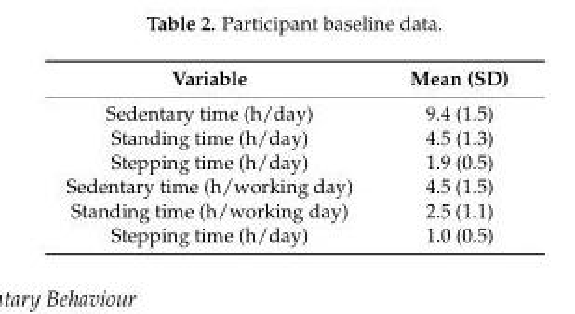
<table><thead><tr><td>Variable</td><td>Mean (SD)</td></tr></thead><tbody><tr><td>Sedentary time (h/day)</td><td>9.4 (1.5)</td></tr><tr><td>Standing time (h/day)</td><td>4.5 (1.3)</td></tr><tr><td>Stepping time (h/day)</td><td>1.9 (0.5)</td></tr><tr><td>Sedentary time (h/working day)</td><td>4.5 (1.5)</td></tr><tr><td>Standing time (h/working day)</td><td>2.5 (1.1)</td></tr><tr><td>Stepping time (h/day)</td><td>1.0 (0.5)</td></tr></tbody></table>